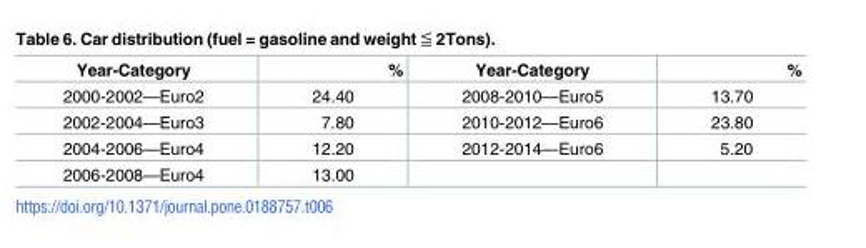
<table><thead><tr><td>Year-Category</td><td>%</td><td>Year-Category</td><td>%</td></tr></thead><tbody><tr><td>2000-2002—Euro2</td><td>24.40</td><td>2008-2010—Euro5</td><td>13.70</td></tr><tr><td>2002-2004—Euro3</td><td>7.80</td><td>2010-2012—Euro6</td><td>23.80</td></tr><tr><td>2004-2006—Euro4</td><td>12.20</td><td>2012-2014—Euro6</td><td>5.20</td></tr><tr><td>2006-2008—Euro4</td><td>13.00</td><td></td><td></td></tr></tbody></table>